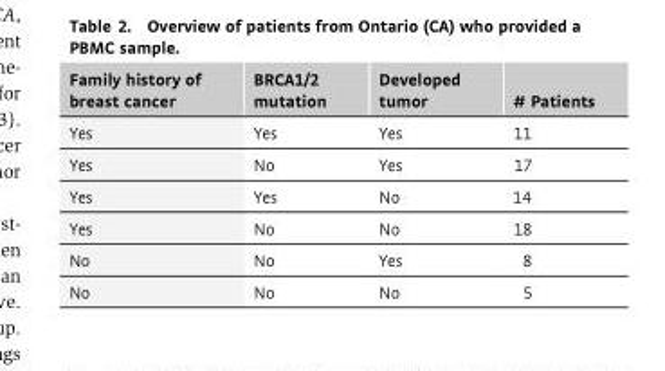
<table><thead><tr><td>Family history of breast cancer</td><td>BRCA1/2 mutation</td><td>Developed tumor</td><td># Patients</td></tr></thead><tbody><tr><td>Yes</td><td>Yes</td><td>Yes</td><td>11</td></tr><tr><td>Yes</td><td>No</td><td>Yes</td><td>17</td></tr><tr><td>Yes</td><td>Yes</td><td>No</td><td>14</td></tr><tr><td>Yes</td><td>No</td><td>No</td><td>18</td></tr><tr><td>No</td><td>No</td><td>Yes</td><td>8</td></tr><tr><td>No</td><td>No</td><td>No</td><td>5</td></tr></tbody></table>